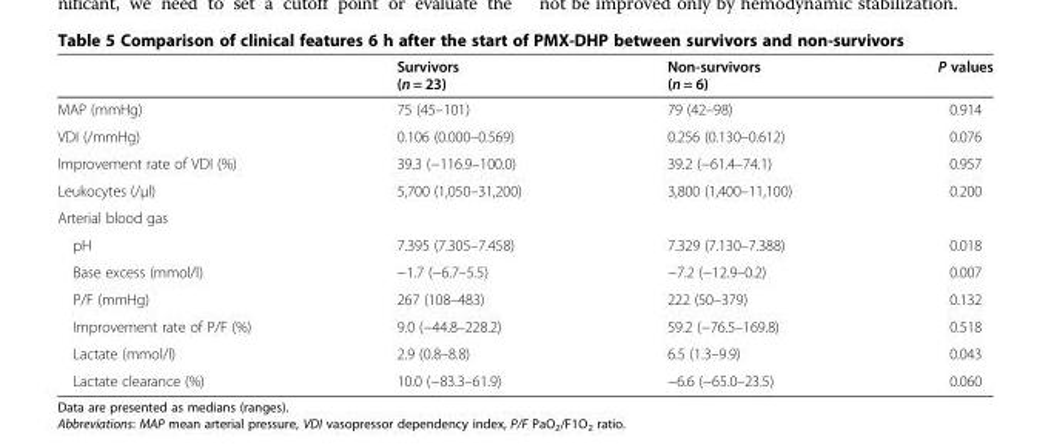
<table><thead><tr><td></td><td>Survivors (n = 23)</td><td>Non-survivors (n = 6)</td><td>P values</td></tr></thead><tbody><tr><td>MAP (mmHg)</td><td>75 (45–101)</td><td>79 (42–98)</td><td>0.914</td></tr><tr><td>VDI (/mmHg)</td><td>0.106 (0.000–0.569)</td><td>0.256 (0.130–0.612)</td><td>0.076</td></tr><tr><td>Improvement rate of VDI (%)</td><td>39.3 (−116.9–100.0)</td><td>39.2 (−61.4–74.1)</td><td>0.957</td></tr><tr><td>Leukocytes (/μl)</td><td>5,700 (1,050–31,200)</td><td>3,800 (1,400–11,100)</td><td>0.200</td></tr><tr><td colspan="4">Arterial blood gas</td></tr><tr><td>pH</td><td>7.395 (7.305–7.458)</td><td>7.329 (7.130–7.388)</td><td>0.018</td></tr><tr><td>Base excess (mmol/l)</td><td>−1.7 (−6.7–5.5)</td><td>−7.2 (−12.9–0.2)</td><td>0.007</td></tr><tr><td>P/F (mmHg)</td><td>267 (108–483)</td><td>222 (50–379)</td><td>0.132</td></tr><tr><td>Improvement rate of P/F (%)</td><td>9.0 (−44.8–228.2)</td><td>59.2 (−76.5–169.8)</td><td>0.518</td></tr><tr><td>Lactate (mmol/l)</td><td>2.9 (0.8–8.8)</td><td>6.5 (1.3–9.9)</td><td>0.043</td></tr><tr><td>Lactate clearance (%)</td><td>10.0 (−83.3–61.9)</td><td>−6.6 (−65.0–23.5)</td><td>0.060</td></tr></tbody></table>